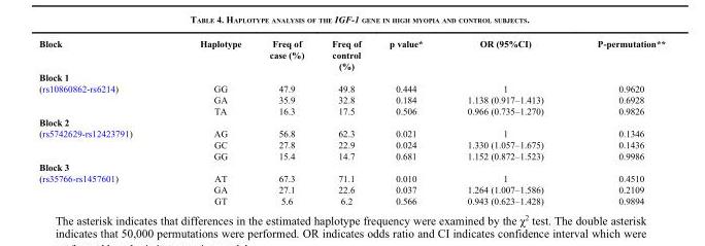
<table><thead><tr><td>Block</td><td>Haplotype</td><td>Freq of case (%)</td><td>Freq of control (%)</td><td>p value*</td><td>OR (95%CI)</td><td>P-permutation**</td></tr></thead><tbody><tr><td colspan="7">Block 1</td></tr><tr><td rowspan="3">(rs10860862-rs6214)</td><td>GG</td><td>47.9</td><td>49.8</td><td>0.444</td><td>1</td><td>0.9620</td></tr><tr><td>GA</td><td>35.9</td><td>32.8</td><td>0.184</td><td>1.138 (0.917–1.413)</td><td>0.6928</td></tr><tr><td>TA</td><td>16.3</td><td>17.5</td><td>0.506</td><td>0.966 (0.735–1.270)</td><td>0.9826</td></tr><tr><td colspan="7">Block 2</td></tr><tr><td rowspan="3">(rs5742629-rs12423791)</td><td>AG</td><td>56.8</td><td>62.3</td><td>0.021</td><td>1</td><td>0.1346</td></tr><tr><td>GC</td><td>27.8</td><td>22.9</td><td>0.024</td><td>1.330 (1.057–1.675)</td><td>0.1436</td></tr><tr><td>GG</td><td>15.4</td><td>14.7</td><td>0.681</td><td>1.152 (0.872–1.523)</td><td>0.9986</td></tr><tr><td colspan="7">Block 3</td></tr><tr><td rowspan="3">(rs35766-rs1457601)</td><td>AT</td><td>67.3</td><td>71.1</td><td>0.010</td><td>1</td><td>0.4510</td></tr><tr><td>GA</td><td>27.1</td><td>22.6</td><td>0.037</td><td>1.264 (1.007–1.586)</td><td>0.2109</td></tr><tr><td>GT</td><td>5.6</td><td>6.2</td><td>0.566</td><td>0.943 (0.623–1.428)</td><td>0.9894</td></tr></tbody></table>